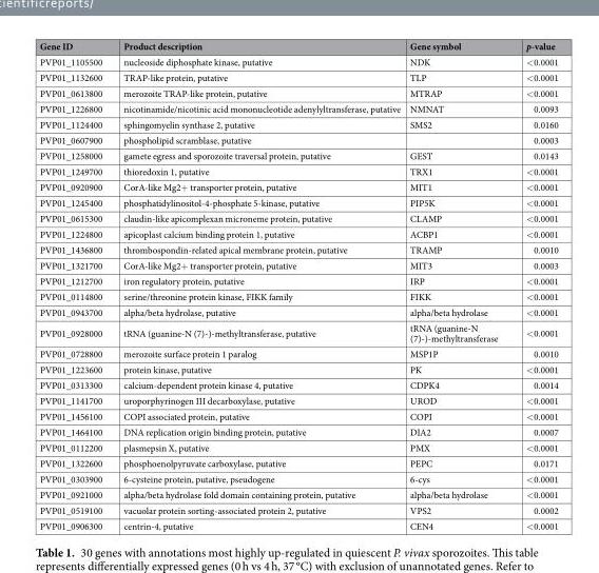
<table><thead><tr><td>Gene ID</td><td>Product description</td><td>Gene symbol</td><td>p-value</td></tr></thead><tbody><tr><td>PVP01_1105500</td><td>nucleoside diphosphate kinase, putative</td><td>NDK</td><td>&lt;0.0001</td></tr><tr><td>PVP01_1132600</td><td>TRAP-like protein, putative</td><td>TLP</td><td>&lt;0.0001</td></tr><tr><td>PVP01_0613800</td><td>merozoite TRAP-like protein, putative</td><td>MTRAP</td><td>&lt;0.0001</td></tr><tr><td>PVP01_1226800</td><td>nicotinamide/nicotinic acid mononucleotide adenylyltransferase, putative</td><td>NMNAT</td><td>0.0093</td></tr><tr><td>PVP01_1124400</td><td>sphingomyelin synthase 2, putative</td><td>SMS2</td><td>0.0160</td></tr><tr><td>PVP01_0607900</td><td>phospholipid scramblase, putative</td><td></td><td>0.0003</td></tr><tr><td>PVP01_1258000</td><td>gamete egress and sporozoite traversal protein, putative</td><td>GEST</td><td>0.0143</td></tr><tr><td>PVP01_1249700</td><td>thioredoxin 1, putative</td><td>TRX1</td><td>&lt;0.0001</td></tr><tr><td>PVP01_0920900</td><td>CorA-like Mg2+ transporter protein, putative</td><td>MIT1</td><td>&lt;0.0001</td></tr><tr><td>PVP01_1245400</td><td>phosphatidylinositol-4-phosphate 5-kinase, putative</td><td>PIP5K</td><td>&lt;0.0001</td></tr><tr><td>PVP01_0615300</td><td>claudin-like apicomplexan microneme protein, putative</td><td>CLAMP</td><td>&lt;0.0001</td></tr><tr><td>PVP01_1224800</td><td>apicoplast calcium binding protein 1, putative</td><td>ACBP1</td><td>&lt;0.0001</td></tr><tr><td>PVP01_1436800</td><td>thrombospondin-related apical membrane protein, putative</td><td>TRAMP</td><td>0.0010</td></tr><tr><td>PVP01_1321700</td><td>CorA-like Mg2+ transporter protein, putative</td><td>MIT3</td><td>0.0003</td></tr><tr><td>PVP01_1212700</td><td>iron regulatory protein, putative</td><td>IRP</td><td>&lt;0.0001</td></tr><tr><td>PVP01_0114800</td><td>serine/threonine protein kinase, FIKK family</td><td>FIKK</td><td>&lt;0.0001</td></tr><tr><td>PVP01_0943700</td><td>alpha/beta hydrolase, putative</td><td>alpha/beta hydrolase</td><td>&lt;0.0001</td></tr><tr><td>PVP01_0928000</td><td>tRNA (guanine-N (7)-)-methyltransferase, putative</td><td>tRNA (guanine-N (7)-)-methyltransferase</td><td>&lt;0.0001</td></tr><tr><td>PVP01_0728800</td><td>merozoite surface protein 1 paralog</td><td>MSP1P</td><td>0.0010</td></tr><tr><td>PVP01_1223600</td><td>protein kinase, putative</td><td>PK</td><td>&lt;0.0001</td></tr><tr><td>PVP01_0313300</td><td>calcium-dependent protein kinase 4, putative</td><td>CDPK4</td><td>0.0014</td></tr><tr><td>PVP01_1141700</td><td>uroporphyrinogen III decarboxylase, putative</td><td>UROD</td><td>&lt;0.0001</td></tr><tr><td>PVP01_1456100</td><td>COPI associated protein, putative</td><td>COPI</td><td>&lt;0.0001</td></tr><tr><td>PVP01_1464100</td><td>DNA replication origin binding protein, putative</td><td>DIA2</td><td>0.0007</td></tr><tr><td>PVP01_0112200</td><td>plasmepsin X, putative</td><td>PMX</td><td>&lt;0.0001</td></tr><tr><td>PVP01_1322600</td><td>phosphoenolpyruvate carboxylase, putative</td><td>PEPC</td><td>0.0171</td></tr><tr><td>PVP01_0303900</td><td>6-cysteine protein, putative, pseudogene</td><td>6-cys</td><td>&lt;0.0001</td></tr><tr><td>PVP01_0921000</td><td>alpha/beta hydrolase fold domain containing protein, putative</td><td>alpha/beta hydrolase</td><td>&lt;0.0001</td></tr><tr><td>PVP01_0519100</td><td>vacuolar protein sorting-associated protein 2, putative</td><td>VPS2</td><td>0.0002</td></tr><tr><td>PVP01_0906300</td><td>centrin-4, putative</td><td>CEN4</td><td>&lt;0.0001</td></tr></tbody></table>